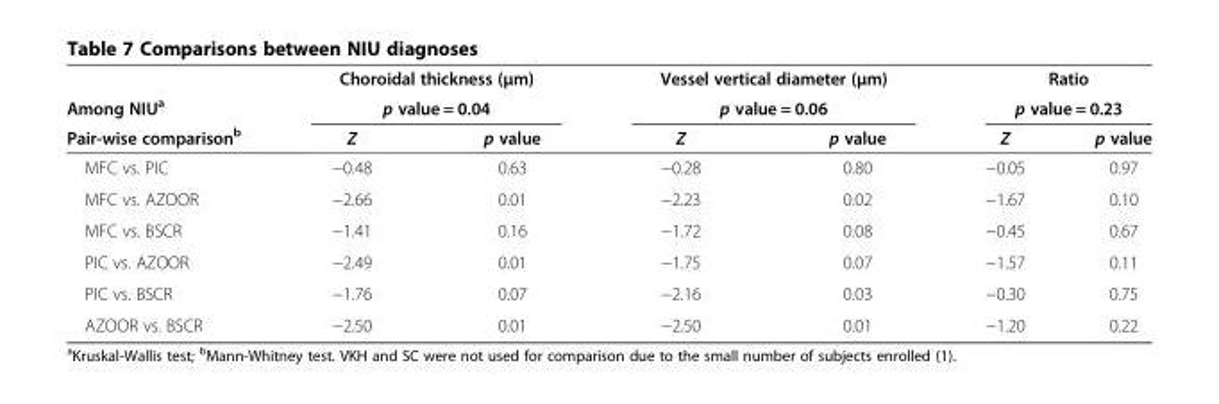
<table><thead><tr><td rowspan="3">Among NIU<sup>a</sup> Pair-wise comparison<sup>b</sup></td><td rowspan="2" colspan="2">Choroidal thickness (μm) p value = 0.04</td><td rowspan="2" colspan="2">Vessel vertical diameter (μm) p value = 0.06</td><td rowspan="2" colspan="2">Ratio p value = 0.23</td></tr><tr></tr><tr><td>Z</td><td>p value</td><td>Z</td><td>p value</td><td>Z</td><td>p value</td></tr></thead><tbody><tr><td>MFC vs. PIC</td><td>−0.48</td><td>0.63</td><td>−0.28</td><td>0.80</td><td>−0.05</td><td>0.97</td></tr><tr><td>MFC vs. AZOOR</td><td>−2.66</td><td>0.01</td><td>−2.23</td><td>0.02</td><td>−1.67</td><td>0.10</td></tr><tr><td>MFC vs. BSCR</td><td>−1.41</td><td>0.16</td><td>−1.72</td><td>0.08</td><td>−0.45</td><td>0.67</td></tr><tr><td>PIC vs. AZOOR</td><td>−2.49</td><td>0.01</td><td>−1.75</td><td>0.07</td><td>−1.57</td><td>0.11</td></tr><tr><td>PIC vs. BSCR</td><td>−1.76</td><td>0.07</td><td>−2.16</td><td>0.03</td><td>−0.30</td><td>0.75</td></tr><tr><td>AZOOR vs. BSCR</td><td>−2.50</td><td>0.01</td><td>−2.50</td><td>0.01</td><td>−1.20</td><td>0.22</td></tr></tbody></table>